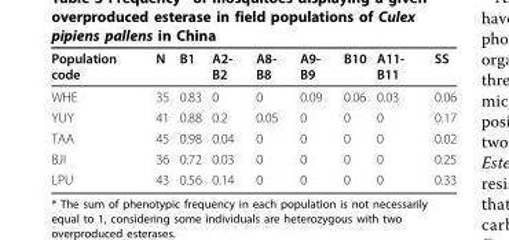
<table><thead><tr><td>Population code</td><td>N</td><td>B1</td><td>A2- B2</td><td>A8- B8</td><td>A9- B9</td><td>B10</td><td>A11- B11</td><td>SS</td></tr></thead><tbody><tr><td>WHE</td><td>35</td><td>0.83</td><td>0</td><td>0</td><td>0.09</td><td>0.06</td><td>0.03</td><td>0.06</td></tr><tr><td>YUY</td><td>41</td><td>0.88</td><td>0.2</td><td>0.05</td><td>0</td><td>0</td><td>0</td><td>0.17</td></tr><tr><td>TAA</td><td>45</td><td>0.98</td><td>0.04</td><td>0</td><td>0</td><td>0</td><td>0</td><td>0.02</td></tr><tr><td>BJI</td><td>36</td><td>0.72</td><td>0.03</td><td>0</td><td>0</td><td>0</td><td>0</td><td>0.25</td></tr><tr><td>LPU</td><td>43</td><td>0.56</td><td>0.14</td><td>0</td><td>0</td><td>0</td><td>0</td><td>0.33</td></tr></tbody></table>